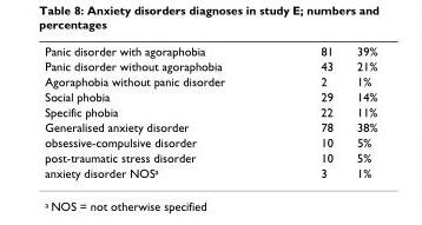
<table><tbody><tr><td>Panic disorder with agoraphobia</td><td>81</td><td>39%</td></tr><tr><td>Panic disorder without agoraphobia</td><td>43</td><td>21%</td></tr><tr><td>Agoraphobia without panic disorder</td><td>2</td><td>1%</td></tr><tr><td>Social phobia</td><td>29</td><td>14%</td></tr><tr><td>Specific phobia</td><td>22</td><td>11%</td></tr><tr><td>Generalised anxiety disorder</td><td>78</td><td>38%</td></tr><tr><td>obsessive-compulsive disorder</td><td>10</td><td>5%</td></tr><tr><td>post-traumatic stress disorder</td><td>10</td><td>5%</td></tr><tr><td>anxiety disorder NOS<sup>a</sup></td><td>3</td><td>1%</td></tr></tbody></table>